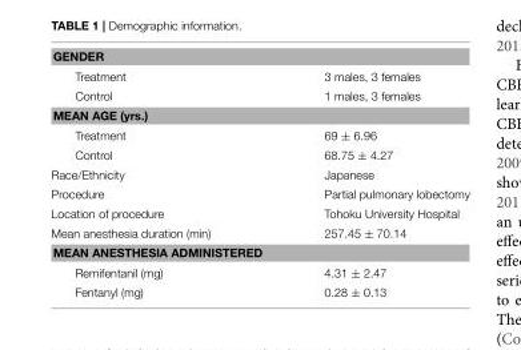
<table><tbody><tr><td colspan="2">GENDER</td></tr><tr><td>Treatment</td><td>3 males, 3 females</td></tr><tr><td>Control</td><td>1 males, 3 females</td></tr><tr><td colspan="2">MEAN AGE (yrs.)</td></tr><tr><td>Treatment</td><td>69 ± 6.96</td></tr><tr><td>Control</td><td>68.75 ± 4.27</td></tr><tr><td>Race/Ethnicity</td><td>Japanese</td></tr><tr><td>Procedure</td><td>Partial pulmonary lobectomy</td></tr><tr><td>Location of procedure</td><td>Tohoku University Hospital</td></tr><tr><td>Mean anesthesia duration (min)</td><td>257.45 ± 70.14</td></tr><tr><td colspan="2">MEAN ANESTHESIA ADMINISTERED</td></tr><tr><td>Remifentanil (mg)</td><td>4.31 ± 2.47</td></tr><tr><td>Fentanyl (mg)</td><td>0.28 ± 0.13</td></tr></tbody></table>